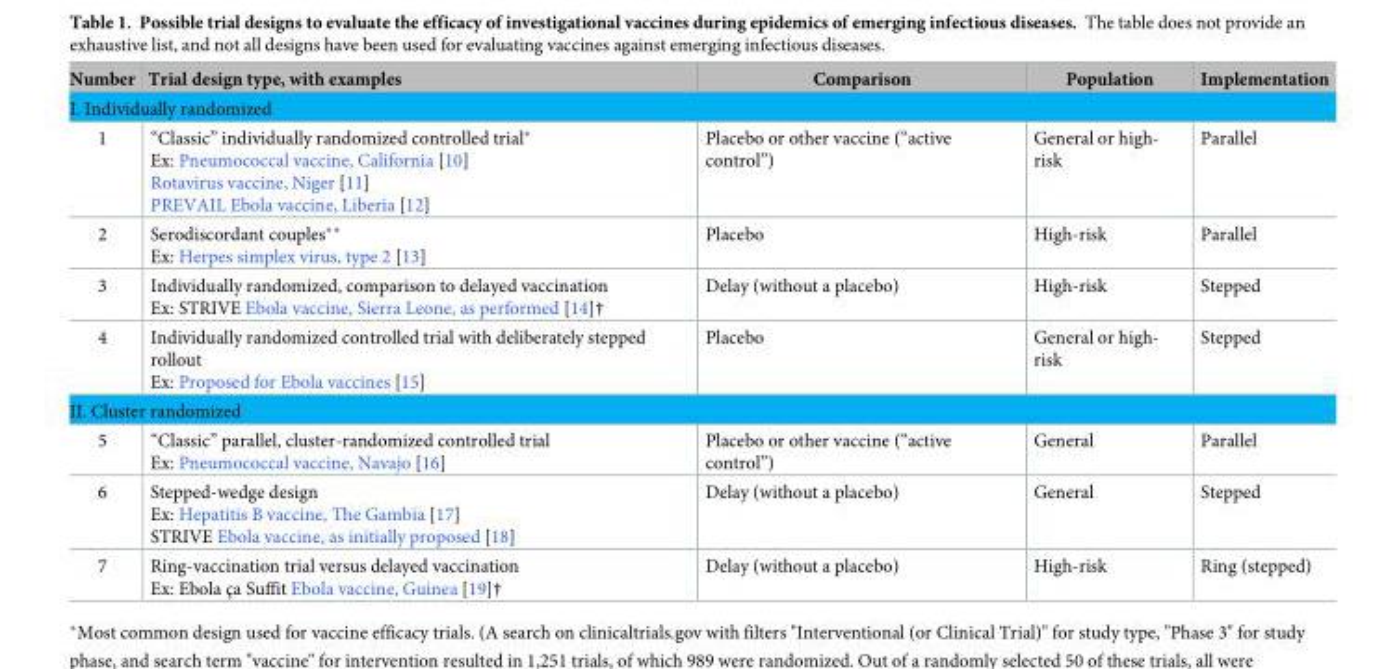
<table><thead><tr><td>Number</td><td>Trial design type, with examples</td><td>Comparison</td><td>Population</td><td>Implementation</td></tr></thead><tbody><tr><td colspan="5">I. Individually randomized</td></tr><tr><td>1</td><td>“Classic” individually randomized controlled trial* Ex: Pneumococcal vaccine, California [10] Rotavirus vaccine, Niger [11] PREVAIL Ebola vaccine, Liberia [12]</td><td>Placebo or other vaccine (“active control”)</td><td>General or high- risk</td><td>Parallel</td></tr><tr><td>2</td><td>Serodiscordant couples** Ex: Herpes simplex virus, type 2 [13]</td><td>Placebo</td><td>High-risk</td><td>Parallel</td></tr><tr><td>3</td><td>Individually randomized, comparison to delayed vaccination Ex: STRIVE Ebola vaccine, Sierra Leone, as performed [14]†</td><td>Delay (without a placebo)</td><td>High-risk</td><td>Stepped</td></tr><tr><td>4</td><td>Individually randomized controlled trial with deliberately stepped rollout Ex: Proposed for Ebola vaccines [15]</td><td>Placebo</td><td>General or high- risk</td><td>Stepped</td></tr><tr><td colspan="5">II. Cluster randomized</td></tr><tr><td>5</td><td>“Classic” parallel, cluster-randomized controlled trial Ex: Pneumococcal vaccine, Navajo [16]</td><td>Placebo or other vaccine (“active control”)</td><td>General</td><td>Parallel</td></tr><tr><td>6</td><td>Stepped-wedge design Ex: Hepatitis B vaccine, The Gambia [17] STRIVE Ebola vaccine, as initially proposed [18]</td><td>Delay (without a placebo)</td><td>General</td><td>Stepped</td></tr><tr><td>7</td><td>Ring-vaccination trial versus delayed vaccination Ex: Ebola c¸a Suffit Ebola vaccine, Guinea [19]†</td><td>Delay (without a placebo)</td><td>High-risk</td><td>Ring (stepped)</td></tr></tbody></table>